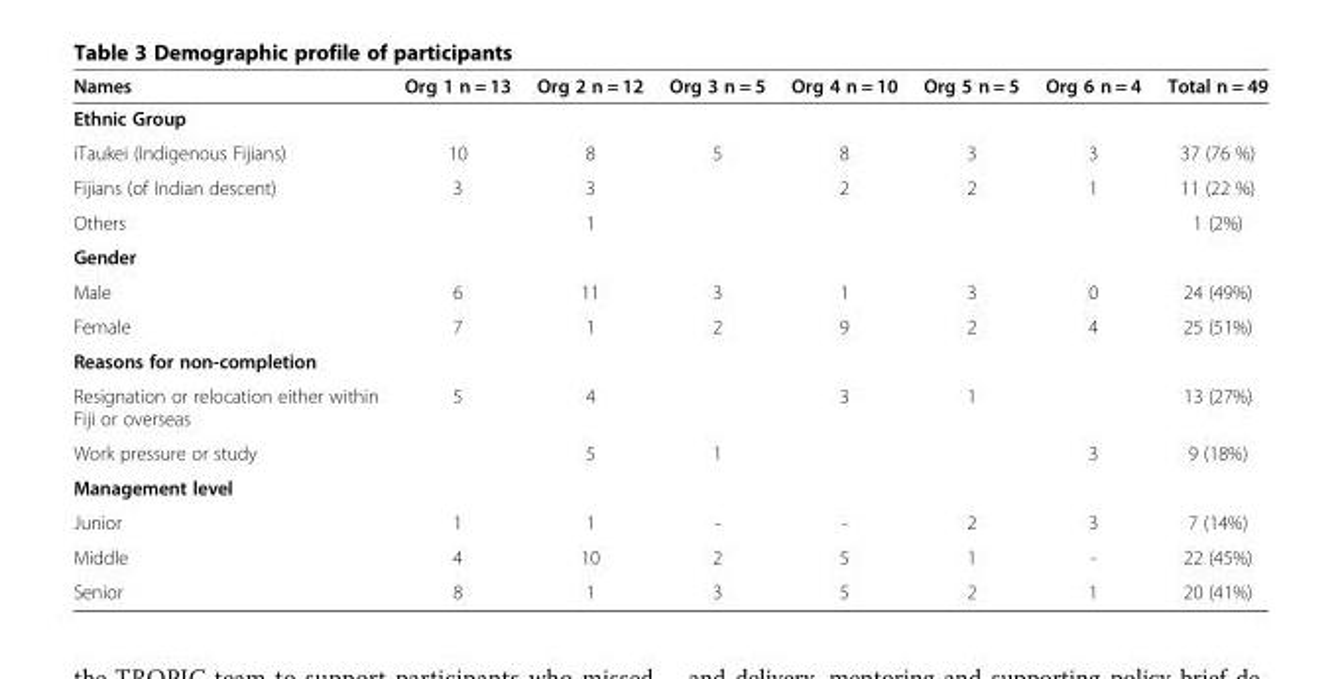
<table><thead><tr><td>Names</td><td>Org 1 n = 13</td><td>Org 2 n = 12</td><td>Org 3 n = 5</td><td>Org 4 n = 10</td><td>Org 5 n = 5</td><td>Org 6 n = 4</td><td>Total n = 49</td></tr></thead><tbody><tr><td colspan="8">Ethnic Group</td></tr><tr><td>iTaukei (Indigenous Fijians)</td><td>10</td><td>8</td><td>5</td><td>8</td><td>3</td><td>3</td><td>37 (76 %)</td></tr><tr><td>Fijians (of Indian descent)</td><td>3</td><td>3</td><td></td><td>2</td><td>2</td><td>1</td><td>11 (22 %)</td></tr><tr><td>Others</td><td></td><td>1</td><td></td><td></td><td></td><td></td><td>1 (2%)</td></tr><tr><td colspan="8">Gender</td></tr><tr><td>Male</td><td>6</td><td>11</td><td>3</td><td>1</td><td>3</td><td>0</td><td>24 (49%)</td></tr><tr><td>Female</td><td>7</td><td>1</td><td>2</td><td>9</td><td>2</td><td>4</td><td>25 (51%)</td></tr><tr><td colspan="8">Reasons for non-completion</td></tr><tr><td>Resignation or relocation either within Fiji or overseas</td><td>5</td><td>4</td><td></td><td>3</td><td>1</td><td></td><td>13 (27%)</td></tr><tr><td>Work pressure or study</td><td></td><td>5</td><td>1</td><td></td><td></td><td>3</td><td>9 (18%)</td></tr><tr><td colspan="8">Management level</td></tr><tr><td>Junior</td><td>1</td><td>1</td><td>-</td><td>-</td><td>2</td><td>3</td><td>7 (14%)</td></tr><tr><td>Middle</td><td>4</td><td>10</td><td>2</td><td>5</td><td>1</td><td>-</td><td>22 (45%)</td></tr><tr><td>Senior</td><td>8</td><td>1</td><td>3</td><td>5</td><td>2</td><td>1</td><td>20 (41%)</td></tr></tbody></table>